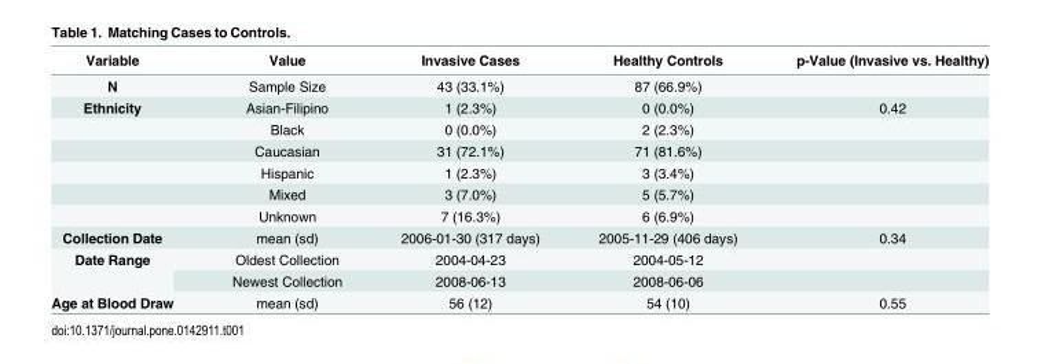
<table><thead><tr><td>Variable</td><td>Value</td><td>Invasive Cases</td><td>Healthy Controls</td><td>p-Value (Invasive vs. Healthy)</td></tr></thead><tbody><tr><td>N</td><td>Sample Size</td><td>43 (33.1%)</td><td>87 (66.9%)</td><td></td></tr><tr><td rowspan="6">Ethnicity</td><td>Asian-Filipino</td><td>1 (2.3%)</td><td>0 (0.0%)</td><td>0.42</td></tr><tr><td>Black</td><td>0 (0.0%)</td><td>2 (2.3%)</td><td></td></tr><tr><td>Caucasian</td><td>31 (72.1%)</td><td>71 (81.6%)</td><td></td></tr><tr><td>Hispanic</td><td>1 (2.3%)</td><td>3 (3.4%)</td><td></td></tr><tr><td>Mixed</td><td>3 (7.0%)</td><td>5 (5.7%)</td><td></td></tr><tr><td>Unknown</td><td>7 (16.3%)</td><td>6 (6.9%)</td><td></td></tr><tr><td>Collection Date</td><td>mean (sd)</td><td>2006-01-30 (317 days)</td><td>2005-11-29 (406 days)</td><td>0.34</td></tr><tr><td rowspan="2">Date Range</td><td>Oldest Collection</td><td>2004-04-23</td><td>2004-05-12</td><td></td></tr><tr><td>Newest Collection</td><td>2008-06-13</td><td>2008-06-06</td><td></td></tr><tr><td>Age at Blood Draw</td><td>mean (sd)</td><td>56 (12)</td><td>54 (10)</td><td>0.55</td></tr></tbody></table>